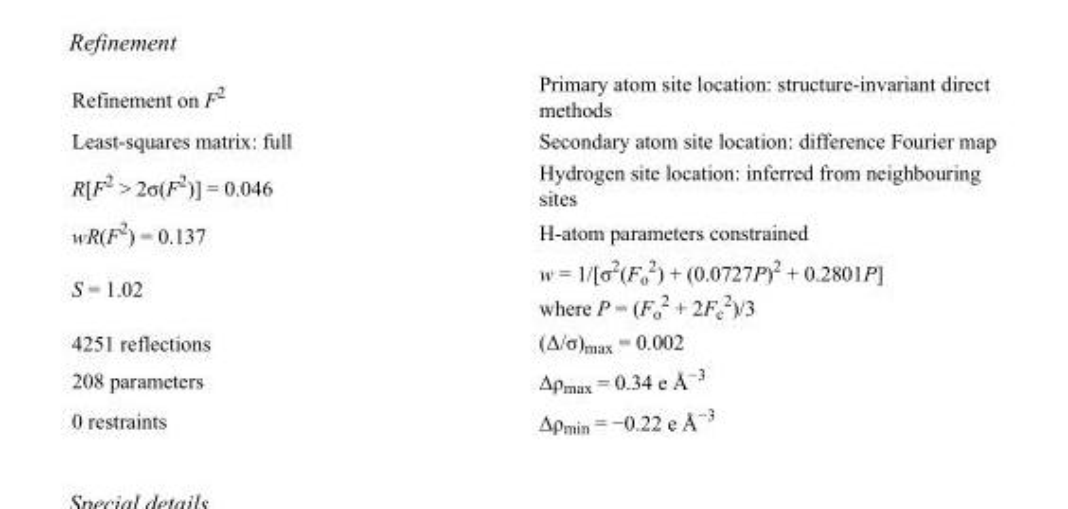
<table><tbody><tr><td>Refinement on F<sup>2</sup></td><td>Primary atom site location: structure-invariant direct methods</td></tr><tr><td>Least-squares matrix: full</td><td>Secondary atom site location: difference Fourier map</td></tr><tr><td>R[F<sup>2</sup> &gt; 2σ(F<sup>2</sup>)] = 0.046</td><td>Hydrogen site location: inferred from neighbouring sites</td></tr><tr><td>wR(F<sup>2</sup>) = 0.137</td><td>H-atom parameters constrained</td></tr><tr><td>S = 1.02</td><td>w = 1/[σ<sup>2</sup>(F<sub>o</sub> <sup>2</sup>) + (0.0727P)<sup>2</sup> + 0.2801P] where P = (F<sub>o</sub> <sup>2</sup> + 2F<sub>c</sub> <sup>2</sup>)/3</td></tr><tr><td>4251 reflections</td><td>(Δ/σ)<sub>max</sub> = 0.002</td></tr><tr><td>208 parameters</td><td>Δρ<sub>max</sub> = 0.34 e Å<sup>−3</sup></td></tr><tr><td>0 restraints</td><td>Δρ<sub>min</sub> = −0.22 e Å<sup>−3</sup></td></tr></tbody></table>